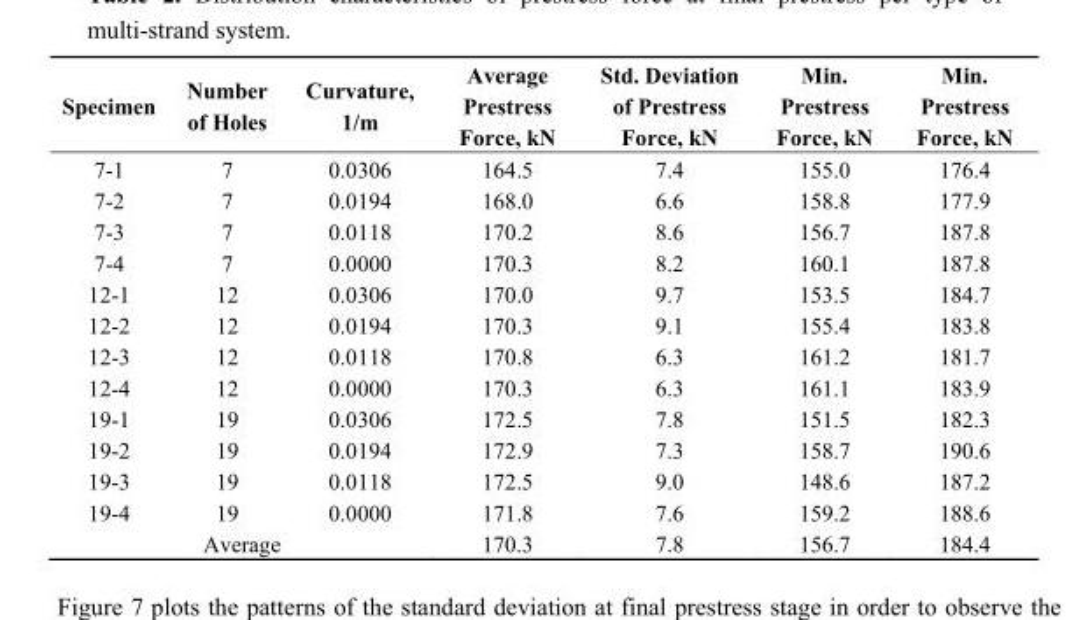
<table><thead><tr><td>Specimen</td><td>Number of Holes</td><td>Curvature, 1/m</td><td>Average Prestress Force, kN</td><td>Std. Deviation of Prestress Force, kN</td><td>Min. Prestress Force, kN</td><td>Min. Prestress Force, kN</td></tr></thead><tbody><tr><td>7-1</td><td>7</td><td>0.0306</td><td>164.5</td><td>7.4</td><td>155.0</td><td>176.4</td></tr><tr><td>7-2</td><td>7</td><td>0.0194</td><td>168.0</td><td>6.6</td><td>158.8</td><td>177.9</td></tr><tr><td>7-3</td><td>7</td><td>0.0118</td><td>170.2</td><td>8.6</td><td>156.7</td><td>187.8</td></tr><tr><td>7-4</td><td>7</td><td>0.0000</td><td>170.3</td><td>8.2</td><td>160.1</td><td>187.8</td></tr><tr><td>12-1</td><td>12</td><td>0.0306</td><td>170.0</td><td>9.7</td><td>153.5</td><td>184.7</td></tr><tr><td>12-2</td><td>12</td><td>0.0194</td><td>170.3</td><td>9.1</td><td>155.4</td><td>183.8</td></tr><tr><td>12-3</td><td>12</td><td>0.0118</td><td>170.8</td><td>6.3</td><td>161.2</td><td>181.7</td></tr><tr><td>12-4</td><td>12</td><td>0.0000</td><td>170.3</td><td>6.3</td><td>161.1</td><td>183.9</td></tr><tr><td>19-1</td><td>19</td><td>0.0306</td><td>172.5</td><td>7.8</td><td>151.5</td><td>182.3</td></tr><tr><td>19-2</td><td>19</td><td>0.0194</td><td>172.9</td><td>7.3</td><td>158.7</td><td>190.6</td></tr><tr><td>19-3</td><td>19</td><td>0.0118</td><td>172.5</td><td>9.0</td><td>148.6</td><td>187.2</td></tr><tr><td>19-4</td><td>19</td><td>0.0000</td><td>171.8</td><td>7.6</td><td>159.2</td><td>188.6</td></tr><tr><td colspan="3">Average</td><td>170.3</td><td>7.8</td><td>156.7</td><td>184.4</td></tr></tbody></table>